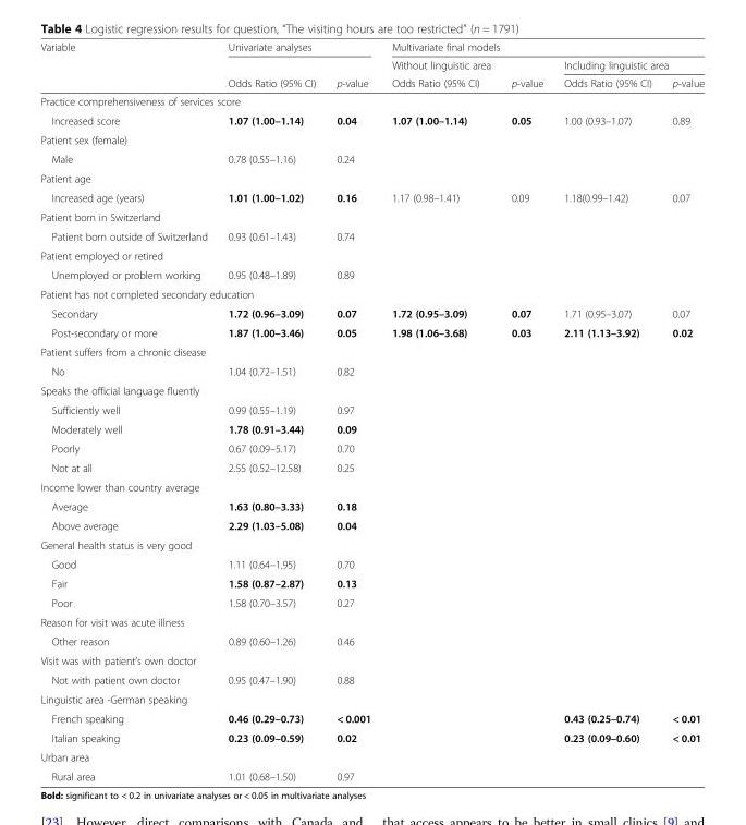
<table><thead><tr><td rowspan="3">Variable</td><td colspan="2">Univariate analyses</td><td colspan="4">Multivariate final models</td></tr><tr><td rowspan="2">Odds Ratio (95% CI)</td><td rowspan="2">p-value</td><td rowspan="2">Without linguistic area Odds Ratio (95% CI)</td><td rowspan="2">p-value</td><td colspan="2">Including linguistic area</td></tr><tr><td>Odds Ratio (95% CI)</td><td>p-value</td></tr></thead><tbody><tr><td colspan="7">Practice comprehensiveness of services score</td></tr><tr><td>Increased score</td><td>1.07 (1.00–1.14)</td><td>0.04</td><td>1.07 (1.00–1.14)</td><td>0.05</td><td>1.00 (0.93–1.07)</td><td>0.89</td></tr><tr><td colspan="7">Patient sex (female)</td></tr><tr><td>Male</td><td>0.78 (0.55–1.16)</td><td>0.24</td><td></td><td></td><td></td><td></td></tr><tr><td colspan="7">Patient age</td></tr><tr><td>Increased age (years)</td><td>1.01 (1.00–1.02)</td><td>0.16</td><td>1.17 (0.98–1.41)</td><td>0.09</td><td>1.18(0.99–1.42)</td><td>0.07</td></tr><tr><td colspan="7">Patient born in Switzerland</td></tr><tr><td>Patient born outside of Switzerland</td><td>0.93 (0.61–1.43)</td><td>0.74</td><td></td><td></td><td></td><td></td></tr><tr><td colspan="7">Patient employed or retired</td></tr><tr><td>Unemployed or problem working</td><td>0.95 (0.48–1.89)</td><td>0.89</td><td></td><td></td><td></td><td></td></tr><tr><td colspan="7">Patient has not completed secondary education</td></tr><tr><td>Secondary</td><td>1.72 (0.96–3.09)</td><td>0.07</td><td>1.72 (0.95–3.09)</td><td>0.07</td><td>1.71 (0.95–3.07)</td><td>0.07</td></tr><tr><td>Post-secondary or more</td><td>1.87 (1.00–3.46)</td><td>0.05</td><td>1.98 (1.06–3.68)</td><td>0.03</td><td>2.11 (1.13–3.92)</td><td>0.02</td></tr><tr><td colspan="7">Patient suffers from a chronic disease</td></tr><tr><td>No</td><td>1.04 (0.72–1.51)</td><td>0.82</td><td></td><td></td><td></td><td></td></tr><tr><td colspan="7">Speaks the official language fluently</td></tr><tr><td>Sufficiently well</td><td>0.99 (0.55–1.19)</td><td>0.97</td><td></td><td></td><td></td><td></td></tr><tr><td>Moderately well</td><td>1.78 (0.91–3.44)</td><td>0.09</td><td></td><td></td><td></td><td></td></tr><tr><td>Poorly</td><td>0.67 (0.09–5.17)</td><td>0.70</td><td></td><td></td><td></td><td></td></tr><tr><td>Not at all</td><td>2.55 (0.52–12.58)</td><td>0.25</td><td></td><td></td><td></td><td></td></tr><tr><td colspan="7">Income lower than country average</td></tr><tr><td>Average</td><td>1.63 (0.80–3.33)</td><td>0.18</td><td></td><td></td><td></td><td></td></tr><tr><td>Above average</td><td>2.29 (1.03–5.08)</td><td>0.04</td><td></td><td></td><td></td><td></td></tr><tr><td colspan="7">General health status is very good</td></tr><tr><td>Good</td><td>1.11 (0.64–1.95)</td><td>0.70</td><td></td><td></td><td></td><td></td></tr><tr><td>Fair</td><td>1.58 (0.87–2.87)</td><td>0.13</td><td></td><td></td><td></td><td></td></tr><tr><td>Poor</td><td>1.58 (0.70–3.57)</td><td>0.27</td><td></td><td></td><td></td><td></td></tr><tr><td colspan="7">Reason for visit was acute illness</td></tr><tr><td>Other reason</td><td>0.89 (0.60–1.26)</td><td>0.46</td><td></td><td></td><td></td><td></td></tr><tr><td colspan="7">Visit was with patient’s own doctor</td></tr><tr><td>Not with patient own doctor</td><td>0.95 (0.47–1.90)</td><td>0.88</td><td></td><td></td><td></td><td></td></tr><tr><td colspan="7">Linguistic area -German speaking</td></tr><tr><td>French speaking</td><td>0.46 (0.29–0.73)</td><td>&lt; 0.001</td><td></td><td></td><td>0.43 (0.25–0.74)</td><td>&lt; 0.01</td></tr><tr><td>Italian speaking</td><td>0.23 (0.09–0.59)</td><td>0.02</td><td></td><td></td><td>0.23 (0.09–0.60)</td><td>&lt; 0.01</td></tr><tr><td colspan="7">Urban area</td></tr><tr><td>Rural area</td><td>1.01 (0.68–1.50)</td><td>0.97</td><td></td><td></td><td></td><td></td></tr></tbody></table>